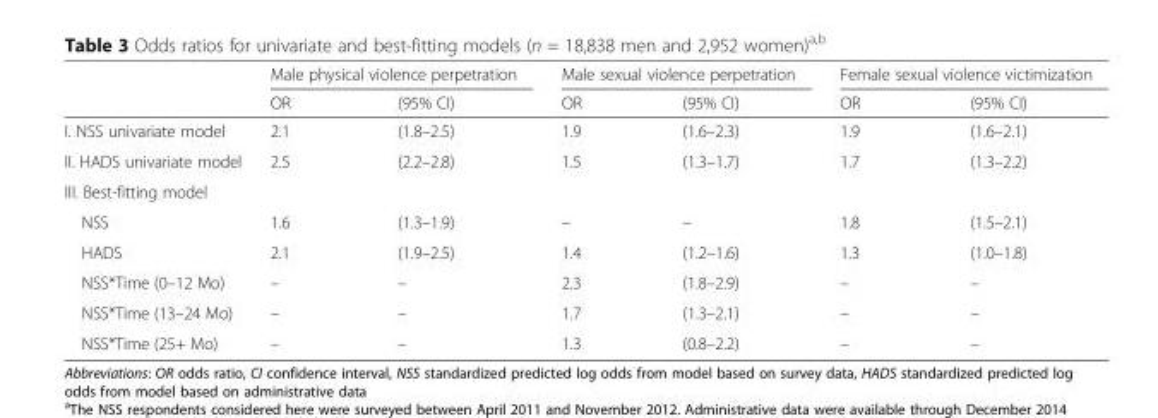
<table><thead><tr><td rowspan="2"></td><td colspan="2">Male physical violence perpetration</td><td colspan="2">Male sexual violence perpetration</td><td colspan="2">Female sexual violence victimization</td></tr><tr><td>OR</td><td>(95% CI)</td><td>OR</td><td>(95% CI)</td><td>OR</td><td>(95% CI)</td></tr></thead><tbody><tr><td>I. NSS univariate model</td><td>2.1</td><td>(1.8–2.5)</td><td>1.9</td><td>(1.6–2.3)</td><td>1.9</td><td>(1.6–2.1)</td></tr><tr><td>II. HADS univariate model</td><td>2.5</td><td>(2.2–2.8)</td><td>1.5</td><td>(1.3–1.7)</td><td>1.7</td><td>(1.3–2.2)</td></tr><tr><td colspan="7">III. Best-fitting model</td></tr><tr><td>NSS</td><td>1.6</td><td>(1.3–1.9)</td><td>–</td><td>–</td><td>1.8</td><td>(1.5–2.1)</td></tr><tr><td>HADS</td><td>2.1</td><td>(1.9–2.5)</td><td>1.4</td><td>(1.2–1.6)</td><td>1.3</td><td>(1.0–1.8)</td></tr><tr><td>NSS*Time (0–12 Mo)</td><td>–</td><td>–</td><td>2.3</td><td>(1.8–2.9)</td><td>–</td><td>–</td></tr><tr><td>NSS*Time (13–24 Mo)</td><td>–</td><td>–</td><td>1.7</td><td>(1.3–2.1)</td><td>–</td><td>–</td></tr><tr><td>NSS*Time (25+ Mo)</td><td>–</td><td>–</td><td>1.3</td><td>(0.8–2.2)</td><td>–</td><td>–</td></tr></tbody></table>